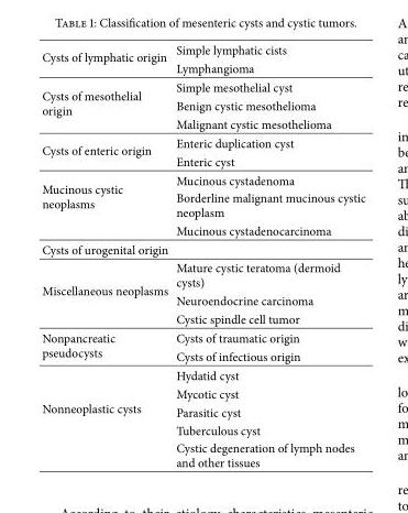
<table><tbody><tr><td rowspan="2">Cysts of lymphatic origin</td><td>Simple lymphatic cists</td></tr><tr><td>Lymphangioma</td></tr><tr><td rowspan="3">Cysts of mesothelial origin</td><td>Simple mesothelial cyst</td></tr><tr><td>Benign cystic mesothelioma</td></tr><tr><td>Malignant cystic mesothelioma</td></tr><tr><td rowspan="2">Cysts of enteric origin</td><td>Enteric duplication cyst</td></tr><tr><td>Enteric cyst</td></tr><tr><td rowspan="3">Mucinous cystic neoplasms</td><td>Mucinous cystadenoma</td></tr><tr><td>Borderline malignant mucinous cystic neoplasm</td></tr><tr><td>Mucinous cystadenocarcinoma</td></tr><tr><td colspan="2">Cysts of urogenital origin</td></tr><tr><td rowspan="3">Miscellaneous neoplasms</td><td>Mature cystic teratoma (dermoid cysts)</td></tr><tr><td>Neuroendocrine carcinoma</td></tr><tr><td>Cystic spindle cell tumor</td></tr><tr><td rowspan="2">Nonpancreatic pseudocysts</td><td>Cysts of traumatic origin</td></tr><tr><td>Cysts of infectious origin</td></tr><tr><td rowspan="5">Nonneoplastic cysts</td><td>Hydatid cyst</td></tr><tr><td>Mycotic cyst</td></tr><tr><td>Parasitic cyst</td></tr><tr><td>Tuberculous cyst</td></tr><tr><td>Cystic degeneration of lymph nodes and other tissues</td></tr></tbody></table>